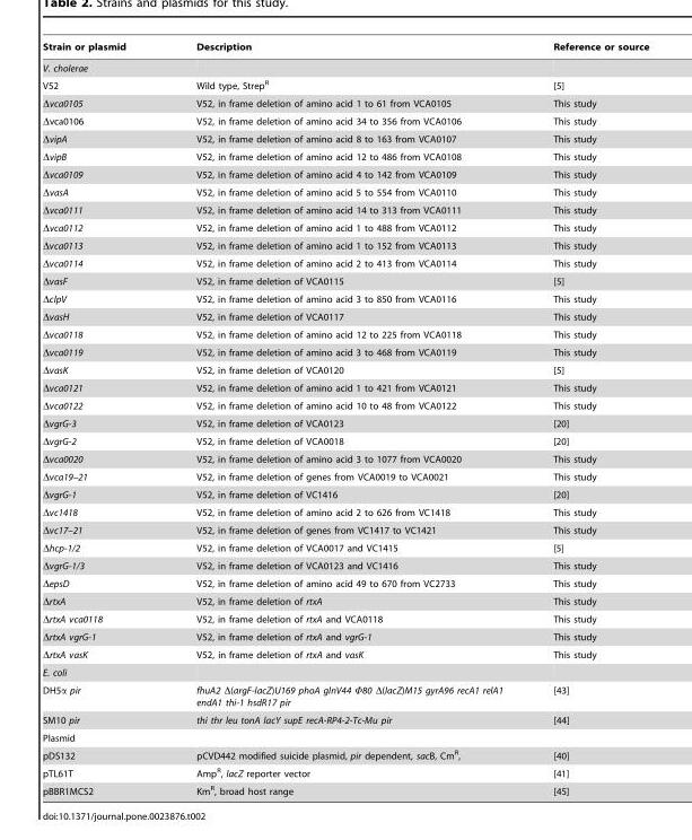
<table><thead><tr><td>Strain or plasmid</td><td>Description</td><td>Reference or source</td></tr></thead><tbody><tr><td colspan="3">V. cholerae</td></tr><tr><td>V52</td><td>Wild type, Strep<sup>R</sup></td><td>[5]</td></tr><tr><td>Δvca0105</td><td>V52, in frame deletion of amino acid 1 to 61 from VCA0105</td><td>This study</td></tr><tr><td>Δvca0106</td><td>V52, in frame deletion of amino acid 34 to 356 from VCA0106</td><td>This study</td></tr><tr><td>ΔvipA</td><td>V52, in frame deletion of amino acid 8 to 163 from VCA0107</td><td>This study</td></tr><tr><td>ΔvipB</td><td>V52, in frame deletion of amino acid 12 to 486 from VCA0108</td><td>This study</td></tr><tr><td>Δvca0109</td><td>V52, in frame deletion of amino acid 4 to 142 from VCA0109</td><td>This study</td></tr><tr><td>ΔvasA</td><td>V52, in frame deletion of amino acid 5 to 554 from VCA0110</td><td>This study</td></tr><tr><td>Δvca0111</td><td>V52, in frame deletion of amino acid 14 to 313 from VCA0111</td><td>This study</td></tr><tr><td>Δvca0112</td><td>V52, in frame deletion of amino acid 1 to 488 from VCA0112</td><td>This study</td></tr><tr><td>Δvca0113</td><td>V52, in frame deletion of amino acid 1 to 152 from VCA0113</td><td>This study</td></tr><tr><td>Δvca0114</td><td>V52, in frame deletion of amino acid 2 to 413 from VCA0114</td><td>This study</td></tr><tr><td>ΔvasF</td><td>V52, in frame deletion of VCA0115</td><td>[5]</td></tr><tr><td>ΔclpV</td><td>V52, in frame deletion of amino acid 3 to 850 from VCA0116</td><td>This study</td></tr><tr><td>ΔvasH</td><td>V52, in frame deletion of VCA0117</td><td>This study</td></tr><tr><td>Δvca0118</td><td>V52, in frame deletion of amino acid 12 to 225 from VCA0118</td><td>This study</td></tr><tr><td>Δvca0119</td><td>V52, in frame deletion of amino acid 3 to 468 from VCA0119</td><td>This study</td></tr><tr><td>ΔvasK</td><td>V52, in frame deletion of VCA0120</td><td>[5]</td></tr><tr><td>Δvca0121</td><td>V52, in frame deletion of amino acid 1 to 421 from VCA0121</td><td>This study</td></tr><tr><td>Δvca0122</td><td>V52, in frame deletion of amino acid 10 to 48 from VCA0122</td><td>This study</td></tr><tr><td>ΔvgrG-3</td><td>V52, in frame deletion of VCA0123</td><td>[20]</td></tr><tr><td>ΔvgrG-2</td><td>V52, in frame deletion of VCA0018</td><td>[20]</td></tr><tr><td>Δvca0020</td><td>V52, in frame deletion of amino acid 3 to 1077 from VCA0020</td><td>This study</td></tr><tr><td>Δvca19–21</td><td>V52, in frame deletion of genes from VCA0019 to VCA0021</td><td>This study</td></tr><tr><td>ΔvgrG-1</td><td>V52, in frame deletion of VC1416</td><td>[20]</td></tr><tr><td>Δvc1418</td><td>V52, in frame deletion of amino acid 2 to 626 from VC1418</td><td>This study</td></tr><tr><td>Δvc17–21</td><td>V52, in frame deletion of genes from VC1417 to VC1421</td><td>This study</td></tr><tr><td>Δhcp-1/2</td><td>V52, in frame deletion of VCA0017 and VC1415</td><td>[5]</td></tr><tr><td>ΔvgrG-1/3</td><td>V52, in frame deletion of VCA0123 and VC1416</td><td>This study</td></tr><tr><td>ΔepsD</td><td>V52, in frame deletion of amino acid 49 to 670 from VC2733</td><td>This study</td></tr><tr><td>ΔrtxA</td><td>V52, in frame deletion of rtxA</td><td>This study</td></tr><tr><td>ΔrtxA vca0118</td><td>V52, in frame deletion of rtxA and VCA0118</td><td>This study</td></tr><tr><td>ΔrtxA vgrG-1</td><td>V52, in frame deletion of rtxA and vgrG-1</td><td>This study</td></tr><tr><td>ΔrtxA vasK</td><td>V52, in frame deletion of rtxA and vasK</td><td>This study</td></tr><tr><td colspan="3">E. coli</td></tr><tr><td>DH5α pir</td><td>fhuA2 Δ(argF-lacZ)U169 phoA glnV44 Φ80 Δ(lacZ)M15 gyrA96 recA1 relA1 endA1 thi-1 hsdR17 pir</td><td>[43]</td></tr><tr><td>SM10 pir</td><td>thi thr leu tonA lacY supE recA-RP4-2-Tc-Mu pir</td><td>[44]</td></tr><tr><td colspan="3">Plasmid</td></tr><tr><td>pDS132</td><td>pCVD442 modified suicide plasmid, pir dependent, sacB, Cm<sup>R</sup>,</td><td>[40]</td></tr><tr><td>pTL61T</td><td>Amp<sup>R</sup>, lacZ reporter vector</td><td>[41]</td></tr><tr><td>pBBR1MCS2</td><td>Km<sup>R</sup>, broad host range</td><td>[45]</td></tr></tbody></table>